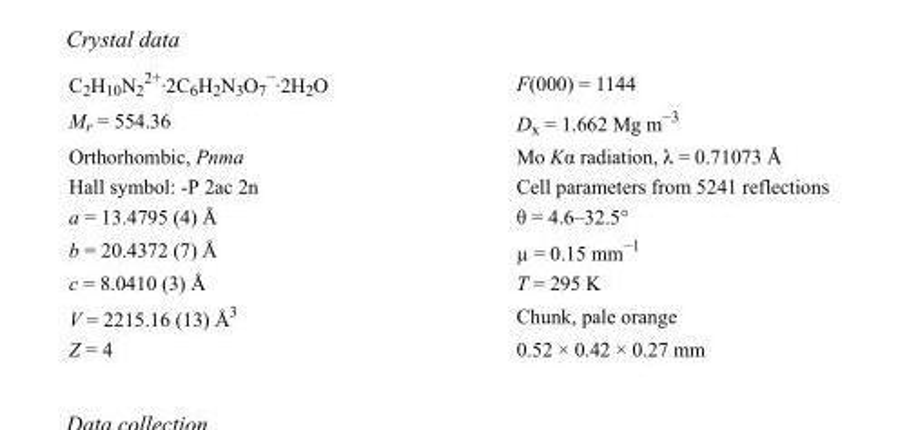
<table><tbody><tr><td>C<sub>2</sub>H<sub>10</sub>N<sub>2</sub> <sup>2+</sup>·2C<sub>6</sub>H<sub>2</sub>N<sub>3</sub>O<sub>7</sub> <sup>−</sup>·2H<sub>2</sub>O</td><td>F(000) = 1144</td></tr><tr><td>M<sub>r</sub> = 554.36</td><td>D<sub>x</sub> = 1.662 Mg m<sup>−3</sup></td></tr><tr><td>Orthorhombic, Pnma</td><td>Mo Kα radiation, λ = 0.71073 Å</td></tr><tr><td>Hall symbol: -P 2ac 2n</td><td>Cell parameters from 5241 reflections</td></tr><tr><td>a = 13.4795 (4) Å</td><td>θ = 4.6–32.5°</td></tr><tr><td>b = 20.4372 (7) Å</td><td>µ = 0.15 mm<sup>−1</sup></td></tr><tr><td>c = 8.0410 (3) Å</td><td>T = 295 K</td></tr><tr><td>V = 2215.16 (13) Å<sup>3</sup></td><td>Chunk, pale orange</td></tr><tr><td>Z = 4</td><td>0.52 × 0.42 × 0.27 mm</td></tr></tbody></table>